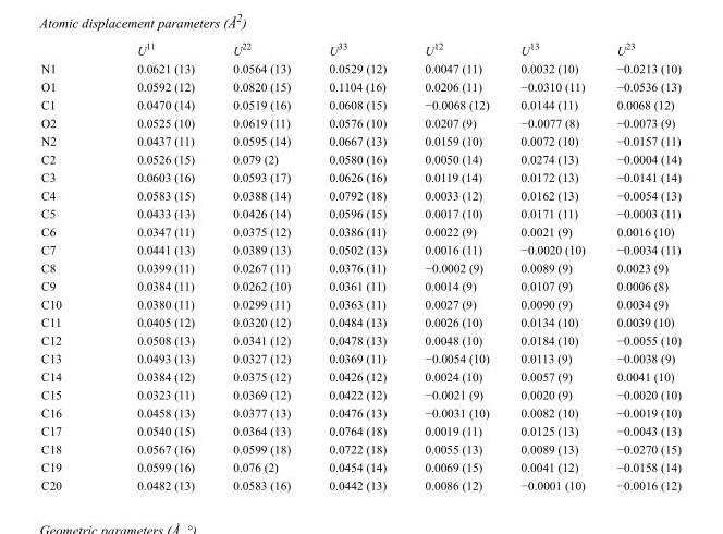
<table><thead><tr><td></td><td>U<sup>11</sup></td><td>U<sup>22</sup></td><td>U<sup>33</sup></td><td>U<sup>12</sup></td><td>U<sup>13</sup></td><td>U<sup>23</sup></td></tr></thead><tbody><tr><td>N1</td><td>0.0621 (13)</td><td>0.0564 (13)</td><td>0.0529 (12)</td><td>0.0047 (11)</td><td>0.0032 (10)</td><td>−0.0213 (10)</td></tr><tr><td>O1</td><td>0.0592 (12)</td><td>0.0820 (15)</td><td>0.1104 (16)</td><td>0.0206 (11)</td><td>−0.0310 (11)</td><td>−0.0536 (13)</td></tr><tr><td>C1</td><td>0.0470 (14)</td><td>0.0519 (16)</td><td>0.0608 (15)</td><td>−0.0068 (12)</td><td>0.0144 (11)</td><td>0.0068 (12)</td></tr><tr><td>O2</td><td>0.0525 (10)</td><td>0.0619 (11)</td><td>0.0576 (10)</td><td>0.0207 (9)</td><td>−0.0077 (8)</td><td>−0.0073 (9)</td></tr><tr><td>N2</td><td>0.0437 (11)</td><td>0.0595 (14)</td><td>0.0667 (13)</td><td>0.0159 (10)</td><td>0.0072 (10)</td><td>−0.0157 (11)</td></tr><tr><td>C2</td><td>0.0526 (15)</td><td>0.079 (2)</td><td>0.0580 (16)</td><td>0.0050 (14)</td><td>0.0274 (13)</td><td>−0.0004 (14)</td></tr><tr><td>C3</td><td>0.0603 (16)</td><td>0.0593 (17)</td><td>0.0626 (16)</td><td>0.0119 (14)</td><td>0.0172 (13)</td><td>−0.0141 (14)</td></tr><tr><td>C4</td><td>0.0583 (15)</td><td>0.0388 (14)</td><td>0.0792 (18)</td><td>0.0033 (12)</td><td>0.0162 (13)</td><td>−0.0054 (13)</td></tr><tr><td>C5</td><td>0.0433 (13)</td><td>0.0426 (14)</td><td>0.0596 (15)</td><td>0.0017 (10)</td><td>0.0171 (11)</td><td>−0.0003 (11)</td></tr><tr><td>C6</td><td>0.0347 (11)</td><td>0.0375 (12)</td><td>0.0386 (11)</td><td>0.0022 (9)</td><td>0.0021 (9)</td><td>0.0016 (10)</td></tr><tr><td>C7</td><td>0.0441 (13)</td><td>0.0389 (13)</td><td>0.0502 (13)</td><td>0.0016 (11)</td><td>−0.0020 (10)</td><td>−0.0034 (11)</td></tr><tr><td>C8</td><td>0.0399 (11)</td><td>0.0267 (11)</td><td>0.0376 (11)</td><td>−0.0002 (9)</td><td>0.0089 (9)</td><td>0.0023 (9)</td></tr><tr><td>C9</td><td>0.0384 (11)</td><td>0.0262 (10)</td><td>0.0361 (11)</td><td>0.0014 (9)</td><td>0.0107 (9)</td><td>0.0006 (8)</td></tr><tr><td>C10</td><td>0.0380 (11)</td><td>0.0299 (11)</td><td>0.0363 (11)</td><td>0.0027 (9)</td><td>0.0090 (9)</td><td>0.0034 (9)</td></tr><tr><td>C11</td><td>0.0405 (12)</td><td>0.0320 (12)</td><td>0.0484 (13)</td><td>0.0026 (10)</td><td>0.0134 (10)</td><td>0.0039 (10)</td></tr><tr><td>C12</td><td>0.0508 (13)</td><td>0.0341 (12)</td><td>0.0478 (13)</td><td>0.0048 (10)</td><td>0.0184 (10)</td><td>−0.0055 (10)</td></tr><tr><td>C13</td><td>0.0493 (13)</td><td>0.0327 (12)</td><td>0.0369 (11)</td><td>−0.0054 (10)</td><td>0.0113 (9)</td><td>−0.0038 (9)</td></tr><tr><td>C14</td><td>0.0384 (12)</td><td>0.0375 (12)</td><td>0.0426 (12)</td><td>0.0024 (10)</td><td>0.0057 (9)</td><td>0.0041 (10)</td></tr><tr><td>C15</td><td>0.0323 (11)</td><td>0.0369 (12)</td><td>0.0422 (12)</td><td>−0.0021 (9)</td><td>0.0020 (9)</td><td>−0.0020 (10)</td></tr><tr><td>C16</td><td>0.0458 (13)</td><td>0.0377 (13)</td><td>0.0476 (13)</td><td>−0.0031 (10)</td><td>0.0082 (10)</td><td>−0.0019 (10)</td></tr><tr><td>C17</td><td>0.0540 (15)</td><td>0.0364 (13)</td><td>0.0764 (18)</td><td>0.0019 (11)</td><td>0.0125 (13)</td><td>−0.0043 (13)</td></tr><tr><td>C18</td><td>0.0567 (16)</td><td>0.0599 (18)</td><td>0.0722 (18)</td><td>0.0055 (13)</td><td>0.0089 (13)</td><td>−0.0270 (15)</td></tr><tr><td>C19</td><td>0.0599 (16)</td><td>0.076 (2)</td><td>0.0454 (14)</td><td>0.0069 (15)</td><td>0.0041 (12)</td><td>−0.0158 (14)</td></tr><tr><td>C20</td><td>0.0482 (13)</td><td>0.0583 (16)</td><td>0.0442 (13)</td><td>0.0086 (12)</td><td>−0.0001 (10)</td><td>−0.0016 (12)</td></tr></tbody></table>